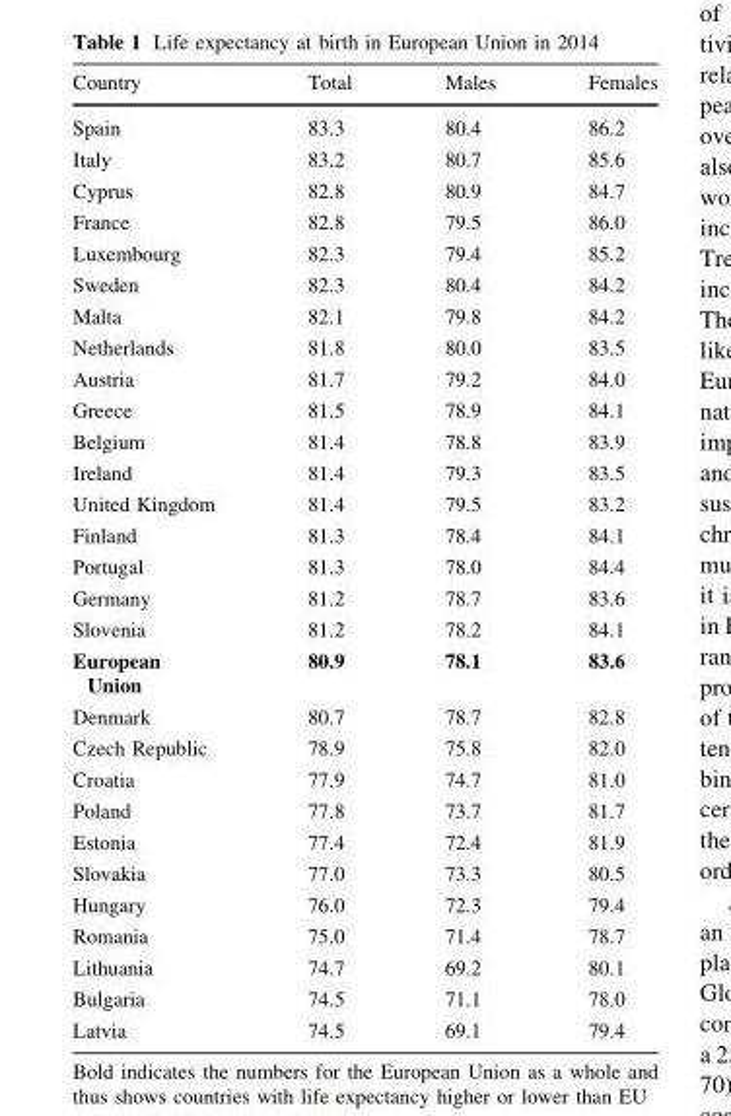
<table><thead><tr><td>Country</td><td>Total</td><td>Males</td><td>Females</td></tr></thead><tbody><tr><td>Spain</td><td>83.3</td><td>80.4</td><td>86.2</td></tr><tr><td>Italy</td><td>83.2</td><td>80.7</td><td>85.6</td></tr><tr><td>Cyprus</td><td>82.8</td><td>80.9</td><td>84.7</td></tr><tr><td>France</td><td>82.8</td><td>79.5</td><td>86.0</td></tr><tr><td>Luxembourg</td><td>82.3</td><td>79.4</td><td>85.2</td></tr><tr><td>Sweden</td><td>82.3</td><td>80.4</td><td>84.2</td></tr><tr><td>Malta</td><td>82.1</td><td>79.8</td><td>84.2</td></tr><tr><td>Netherlands</td><td>81.8</td><td>80.0</td><td>83.5</td></tr><tr><td>Austria</td><td>81.7</td><td>79.2</td><td>84.0</td></tr><tr><td>Greece</td><td>81.5</td><td>78.9</td><td>84.1</td></tr><tr><td>Belgium</td><td>81.4</td><td>78.8</td><td>83.9</td></tr><tr><td>Ireland</td><td>81.4</td><td>79.3</td><td>83.5</td></tr><tr><td>United Kingdom</td><td>81.4</td><td>79.5</td><td>83.2</td></tr><tr><td>Finland</td><td>81.3</td><td>78.4</td><td>84.1</td></tr><tr><td>Portugal</td><td>81.3</td><td>78.0</td><td>84.4</td></tr><tr><td>Germany</td><td>81.2</td><td>78.7</td><td>83.6</td></tr><tr><td>Slovenia</td><td>81.2</td><td>78.2</td><td>84.1</td></tr><tr><td>European Union</td><td>80.9</td><td>78.1</td><td>83.6</td></tr><tr><td>Denmark</td><td>80.7</td><td>78.7</td><td>82.8</td></tr><tr><td>Czech Republic</td><td>78.9</td><td>75.8</td><td>82.0</td></tr><tr><td>Croatia</td><td>77.9</td><td>74.7</td><td>81.0</td></tr><tr><td>Poland</td><td>77.8</td><td>73.7</td><td>81.7</td></tr><tr><td>Estonia</td><td>77.4</td><td>72.4</td><td>81.9</td></tr><tr><td>Slovakia</td><td>77.0</td><td>73.3</td><td>80.5</td></tr><tr><td>Hungary</td><td>76.0</td><td>72.3</td><td>79.4</td></tr><tr><td>Romania</td><td>75.0</td><td>71.4</td><td>78.7</td></tr><tr><td>Lithuania</td><td>74.7</td><td>69.2</td><td>80.1</td></tr><tr><td>Bulgaria</td><td>74.5</td><td>71.1</td><td>78.0</td></tr><tr><td>Latvia</td><td>74.5</td><td>69.1</td><td>79.4</td></tr></tbody></table>